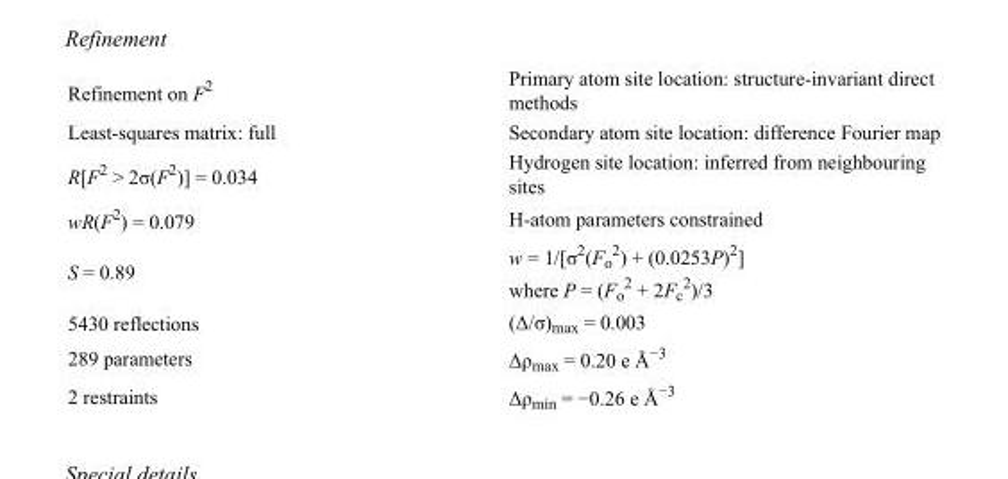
<table><tbody><tr><td>Refinement on F<sup>2</sup></td><td>Primary atom site location: structure-invariant direct methods</td></tr><tr><td>Least-squares matrix: full</td><td>Secondary atom site location: difference Fourier map</td></tr><tr><td>R[F<sup>2</sup> &gt; 2σ(F<sup>2</sup>)] = 0.034</td><td>Hydrogen site location: inferred from neighbouring sites</td></tr><tr><td>wR(F<sup>2</sup>) = 0.079</td><td>H-atom parameters constrained</td></tr><tr><td>S = 0.89</td><td>w = 1/[σ<sup>2</sup>(F<sub>o</sub> <sup>2</sup>) + (0.0253P)<sup>2</sup>] where P = (F<sub>o</sub> <sup>2</sup> + 2F<sub>c</sub> <sup>2</sup>)/3</td></tr><tr><td>5430 reflections</td><td>(Δ/σ)<sub>max</sub> = 0.003</td></tr><tr><td>289 parameters</td><td>Δρ<sub>max</sub> = 0.20 e Å<sup>−3</sup></td></tr><tr><td>2 restraints</td><td>Δρ<sub>min</sub> = −0.26 e Å<sup>−3</sup></td></tr></tbody></table>